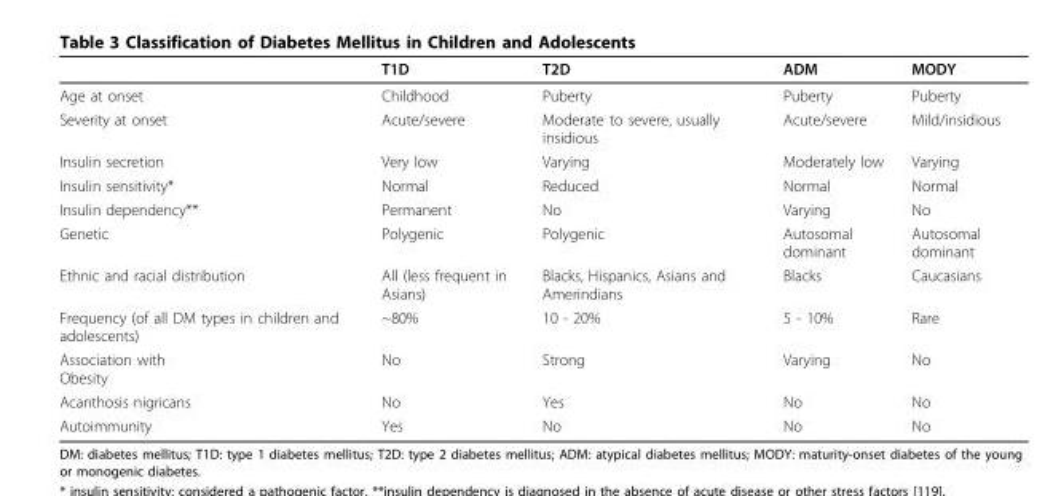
<table><thead><tr><td></td><td>T1D</td><td>T2D</td><td>ADM</td><td>MODY</td></tr></thead><tbody><tr><td>Age at onset</td><td>Childhood</td><td>Puberty</td><td>Puberty</td><td>Puberty</td></tr><tr><td>Severity at onset</td><td>Acute/severe</td><td>Moderate to severe, usually insidious</td><td>Acute/severe</td><td>Mild/insidious</td></tr><tr><td>Insulin secretion</td><td>Very low</td><td>Varying</td><td>Moderately low</td><td>Varying</td></tr><tr><td>Insulin sensitivity*</td><td>Normal</td><td>Reduced</td><td>Normal</td><td>Normal</td></tr><tr><td>Insulin dependency**</td><td>Permanent</td><td>No</td><td>Varying</td><td>No</td></tr><tr><td>Genetic</td><td>Polygenic</td><td>Polygenic</td><td>Autosomal dominant</td><td>Autosomal dominant</td></tr><tr><td>Ethnic and racial distribution</td><td>All (less frequent in Asians)</td><td>Blacks, Hispanics, Asians and Amerindians</td><td>Blacks</td><td>Caucasians</td></tr><tr><td>Frequency (of all DM types in children and adolescents)</td><td>~80%</td><td>10 - 20%</td><td>5 - 10%</td><td>Rare</td></tr><tr><td>Association with Obesity</td><td>No</td><td>Strong</td><td>Varying</td><td>No</td></tr><tr><td>Acanthosis nigricans</td><td>No</td><td>Yes</td><td>No</td><td>No</td></tr><tr><td>Autoimmunity</td><td>Yes</td><td>No</td><td>No</td><td>No</td></tr></tbody></table>